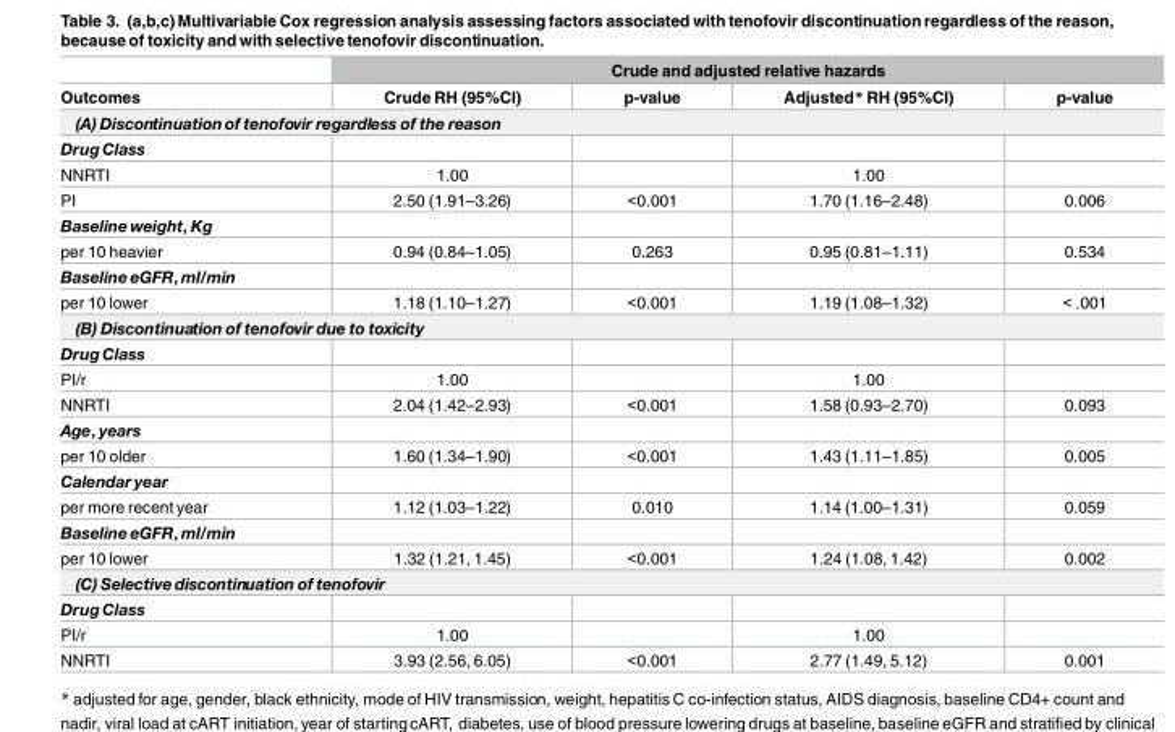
<table><thead><tr><td rowspan="2">Outcomes</td><td colspan="4">Crude and adjusted relative hazards</td></tr><tr><td>Crude RH (95%CI)</td><td>p-value</td><td>Adjusted* RH (95%CI)</td><td>p-value</td></tr></thead><tbody><tr><td colspan="5">(A) Discontinuation of tenofovir regardless of the reason</td></tr><tr><td colspan="5">Drug Class</td></tr><tr><td>NNRTI</td><td>1.00</td><td></td><td>1.00</td><td></td></tr><tr><td>PI</td><td>2.50 (1.91–3.26)</td><td>&lt;0.001</td><td>1.70 (1.16–2.48)</td><td>0.006</td></tr><tr><td colspan="5">Baseline weight, Kg</td></tr><tr><td>per 10 heavier</td><td>0.94 (0.84–1.05)</td><td>0.263</td><td>0.95 (0.81–1.11)</td><td>0.534</td></tr><tr><td colspan="5">Baseline eGFR, ml/min</td></tr><tr><td>per 10 lower</td><td>1.18 (1.10–1.27)</td><td>&lt;0.001</td><td>1.19 (1.08–1.32)</td><td>&lt; .001</td></tr><tr><td colspan="5">(B) Discontinuation of tenofovir due to toxicity</td></tr><tr><td colspan="5">Drug Class</td></tr><tr><td>PI/r</td><td>1.00</td><td></td><td>1.00</td><td></td></tr><tr><td>NNRTI</td><td>2.04 (1.42–2.93)</td><td>&lt;0.001</td><td>1.58 (0.93–2.70)</td><td>0.093</td></tr><tr><td colspan="5">Age, years</td></tr><tr><td>per 10 older</td><td>1.60 (1.34–1.90)</td><td>&lt;0.001</td><td>1.43 (1.11–1.85)</td><td>0.005</td></tr><tr><td colspan="5">Calendar year</td></tr><tr><td>per more recent year</td><td>1.12 (1.03–1.22)</td><td>0.010</td><td>1.14 (1.00–1.31)</td><td>0.059</td></tr><tr><td colspan="5">Baseline eGFR, ml/min</td></tr><tr><td>per 10 lower</td><td>1.32 (1.21, 1.45)</td><td>&lt;0.001</td><td>1.24 (1.08, 1.42)</td><td>0.002</td></tr><tr><td colspan="5">(C) Selective discontinuation of tenofovir</td></tr><tr><td colspan="5">Drug Class</td></tr><tr><td>PI/r</td><td>1.00</td><td></td><td>1.00</td><td></td></tr><tr><td>NNRTI</td><td>3.93 (2.56, 6.05)</td><td>&lt;0.001</td><td>2.77 (1.49, 5.12)</td><td>0.001</td></tr></tbody></table>